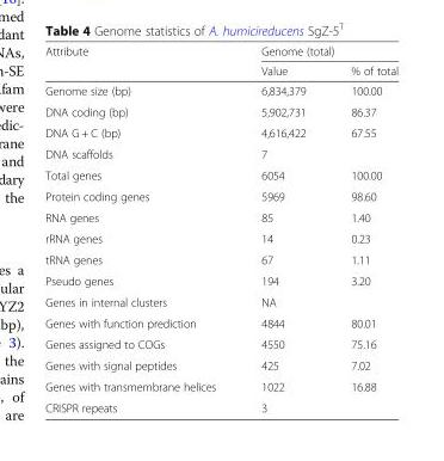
<table><thead><tr><td rowspan="2">Attribute</td><td colspan="2">Genome (total)</td></tr><tr><td>Value</td><td>% of total</td></tr></thead><tbody><tr><td>Genome size (bp)</td><td>6,834,379</td><td>100.00</td></tr><tr><td>DNA coding (bp)</td><td>5,902,731</td><td>86.37</td></tr><tr><td>DNA G + C (bp)</td><td>4,616,422</td><td>67.55</td></tr><tr><td>DNA scaffolds</td><td>7</td><td></td></tr><tr><td>Total genes</td><td>6054</td><td>100.00</td></tr><tr><td>Protein coding genes</td><td>5969</td><td>98.60</td></tr><tr><td>RNA genes</td><td>85</td><td>1.40</td></tr><tr><td>rRNA genes</td><td>14</td><td>0.23</td></tr><tr><td>tRNA genes</td><td>67</td><td>1.11</td></tr><tr><td>Pseudo genes</td><td>194</td><td>3.20</td></tr><tr><td>Genes in internal clusters</td><td>NA</td><td></td></tr><tr><td>Genes with function prediction</td><td>4844</td><td>80.01</td></tr><tr><td>Genes assigned to COGs</td><td>4550</td><td>75.16</td></tr><tr><td>Genes with signal peptides</td><td>425</td><td>7.02</td></tr><tr><td>Genes with transmembrane helices</td><td>1022</td><td>16.88</td></tr><tr><td>CRISPR repeats</td><td>3</td><td></td></tr></tbody></table>